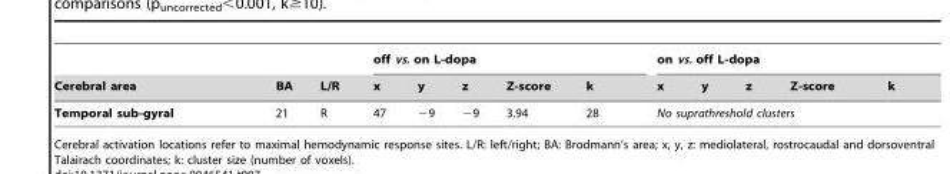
<table><thead><tr><td rowspan="2">Cerebral area</td><td rowspan="2">BA</td><td rowspan="2">L/R</td><td colspan="5">off vs. on L-dopa</td><td colspan="5">on vs. off L-dopa</td></tr><tr><td>x</td><td>y</td><td>z</td><td>Z-score</td><td>k</td><td>x</td><td>y</td><td>z</td><td>Z-score</td><td>k</td></tr></thead><tbody><tr><td>Temporal sub-gyral</td><td>21</td><td>R</td><td>47</td><td>−9</td><td>−9</td><td>3.94</td><td>28</td><td colspan="5">No suprathreshold clusters</td></tr></tbody></table>